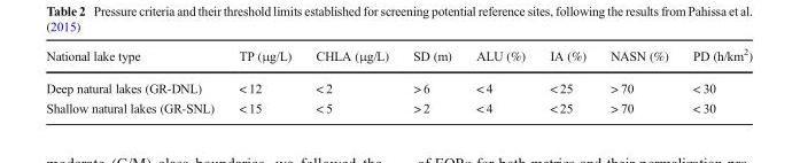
<table><thead><tr><td>National lake type</td><td>TP (μg/L)</td><td>CHLA (μg/L)</td><td>SD (m)</td><td>ALU (%)</td><td>IA (%)</td><td>NASN (%)</td><td>PD (h/km<sup>2</sup>)</td></tr></thead><tbody><tr><td>Deep natural lakes (GR-DNL)</td><td>&lt; 12</td><td>&lt; 2</td><td>&gt; 6</td><td>&lt; 4</td><td>&lt; 25</td><td>&gt; 70</td><td>&lt; 30</td></tr><tr><td>Shallow natural lakes (GR-SNL)</td><td>&lt; 15</td><td>&lt; 5</td><td>&gt; 2</td><td>&lt; 4</td><td>&lt; 25</td><td>&gt; 70</td><td>&lt; 30</td></tr></tbody></table>